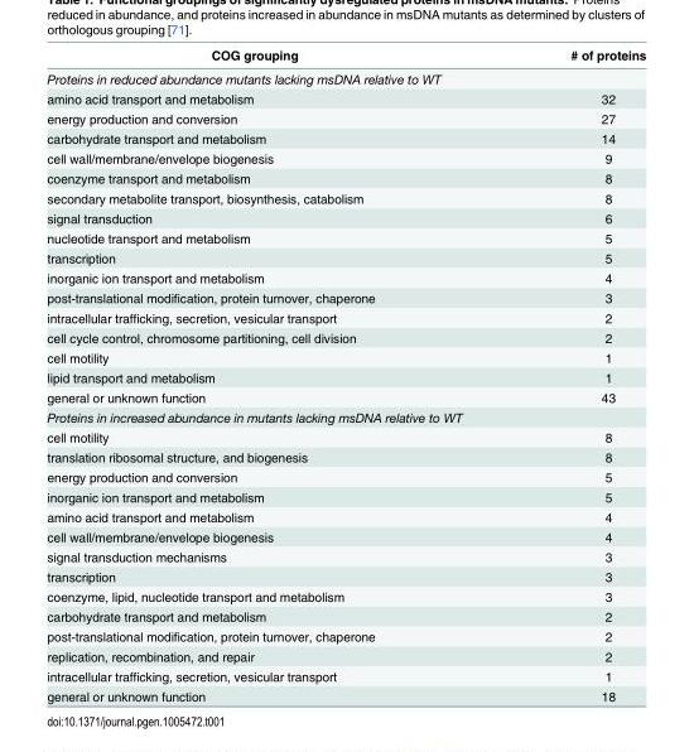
<table><thead><tr><td>COG grouping</td><td># of proteins</td></tr></thead><tbody><tr><td colspan="2">Proteins in reduced abundance mutants lacking msDNA relative to WT</td></tr><tr><td>amino acid transport and metabolism</td><td>32</td></tr><tr><td>energy production and conversion</td><td>27</td></tr><tr><td>carbohydrate transport and metabolism</td><td>14</td></tr><tr><td>cell wall/membrane/envelope biogenesis</td><td>9</td></tr><tr><td>coenzyme transport and metabolism</td><td>8</td></tr><tr><td>secondary metabolite transport, biosynthesis, catabolism</td><td>8</td></tr><tr><td>signal transduction</td><td>6</td></tr><tr><td>nucleotide transport and metabolism</td><td>5</td></tr><tr><td>transcription</td><td>5</td></tr><tr><td>inorganic ion transport and metabolism</td><td>4</td></tr><tr><td>post-translational modification, protein turnover, chaperone</td><td>3</td></tr><tr><td>intracellular trafficking, secretion, vesicular transport</td><td>2</td></tr><tr><td>cell cycle control, chromosome partitioning, cell division</td><td>2</td></tr><tr><td>cell motility</td><td>1</td></tr><tr><td>lipid transport and metabolism</td><td>1</td></tr><tr><td>general or unknown function</td><td>43</td></tr><tr><td colspan="2">Proteins in increased abundance in mutants lacking msDNA relative to WT</td></tr><tr><td>cell motility</td><td>8</td></tr><tr><td>translation ribosomal structure, and biogenesis</td><td>8</td></tr><tr><td>energy production and conversion</td><td>5</td></tr><tr><td>inorganic ion transport and metabolism</td><td>5</td></tr><tr><td>amino acid transport and metabolism</td><td>4</td></tr><tr><td>cell wall/membrane/envelope biogenesis</td><td>4</td></tr><tr><td>signal transduction mechanisms</td><td>3</td></tr><tr><td>transcription</td><td>3</td></tr><tr><td>coenzyme, lipid, nucleotide transport and metabolism</td><td>3</td></tr><tr><td>carbohydrate transport and metabolism</td><td>2</td></tr><tr><td>post-translational modification, protein turnover, chaperone</td><td>2</td></tr><tr><td>replication, recombination, and repair</td><td>2</td></tr><tr><td>intracellular trafficking, secretion, vesicular transport</td><td>1</td></tr><tr><td>general or unknown function</td><td>18</td></tr></tbody></table>